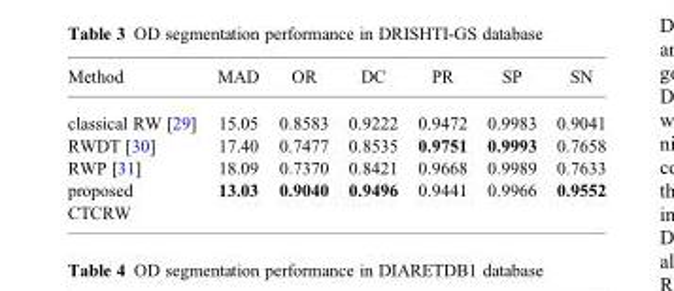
<table><thead><tr><td>Method</td><td>MAD</td><td>OR</td><td>DC</td><td>PR</td><td>SP</td><td>SN</td></tr></thead><tbody><tr><td>classical RW [29]</td><td>15.05</td><td>0.8583</td><td>0.9222</td><td>0.9472</td><td>0.9983</td><td>0.9041</td></tr><tr><td>RWDT [30]</td><td>17.40</td><td>0.7477</td><td>0.8535</td><td>0.9751</td><td>0.9993</td><td>0.7658</td></tr><tr><td>RWP [31]</td><td>18.09</td><td>0.7370</td><td>0.8421</td><td>0.9668</td><td>0.9989</td><td>0.7633</td></tr><tr><td>proposed CTCRW</td><td>13.03</td><td>0.9040</td><td>0.9496</td><td>0.9441</td><td>0.9966</td><td>0.9552</td></tr></tbody></table>